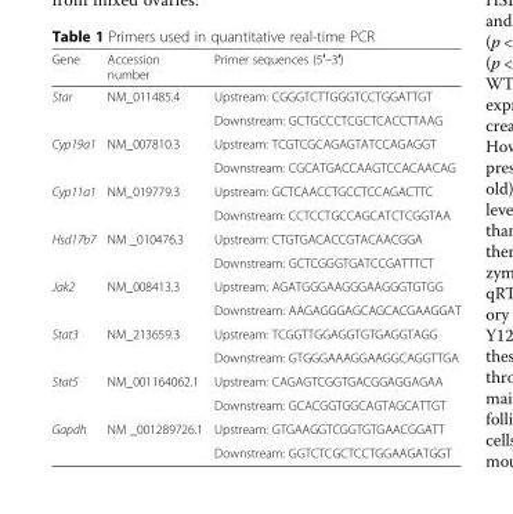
<table><thead><tr><td>Gene</td><td>Accession number</td><td>Primer sequences (5′–3′)</td></tr></thead><tbody><tr><td rowspan="2">Star</td><td rowspan="2">NM_011485.4</td><td>Upstream: CGGGTCTTGGGTCCTGGATTGT</td></tr><tr><td>Downstream: GCTGCCCTCGCTCACCTTAAG</td></tr><tr><td rowspan="2">Cyp19a1</td><td rowspan="2">NM_007810.3</td><td>Upstream: TCGTCGCAGAGTATCCAGAGGT</td></tr><tr><td>Downstream: CGCATGACCAAGTCCACAACAG</td></tr><tr><td rowspan="2">Cyp11a1</td><td rowspan="2">NM_019779.3</td><td>Upstream: GCTCAACCTGCCTCCAGACTTC</td></tr><tr><td>Downstream: CCTCCTGCCAGCATCTCGGTAA</td></tr><tr><td rowspan="2">Hsd17b7</td><td rowspan="2">NM _010476.3</td><td>Upstream: CTGTGACACCGTACAACGGA</td></tr><tr><td>Downstream: GCTCGGGTGATCCGATTTCT</td></tr><tr><td rowspan="2">Jak2</td><td rowspan="2">NM_008413.3</td><td>Upstream: AGATGGGAAGGGAAGGGTGTGG</td></tr><tr><td>Downstream: AAGAGGGAGCAGCACGAAGGAT</td></tr><tr><td rowspan="2">Stat3</td><td rowspan="2">NM_213659.3</td><td>Upstream: TCGGTTGGAGGTGTGAGGTAGG</td></tr><tr><td>Downstream: GTGGGAAAGGAAGGCAGGTTGA</td></tr><tr><td rowspan="2">Stat5</td><td rowspan="2">NM_001164062.1</td><td>Upstream: CAGAGTCGGTGACGGAGGAGAA</td></tr><tr><td>Downstream: GCACGGTGGCAGTAGCATTGT</td></tr><tr><td rowspan="2">Gapdh</td><td rowspan="2">NM _001289726.1</td><td>Upstream: GTGAAGGTCGGTGTGAACGGATT</td></tr><tr><td>Downstream: GGTCTCGCTCCTGGAAGATGGT</td></tr></tbody></table>